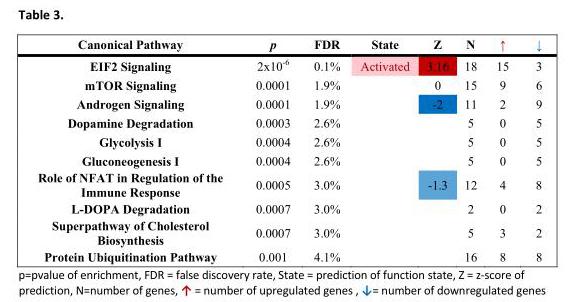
<table><thead><tr><td>Canonical Pathway</td><td>p</td><td>FDR</td><td>State</td><td>Z</td><td>N</td><td>↑</td><td>↓</td></tr></thead><tbody><tr><td>EIF2 Signaling</td><td>2x10-6</td><td>0.1%</td><td>Activated</td><td>3.16</td><td>18</td><td>15</td><td>3</td></tr><tr><td>mTOR Signaling</td><td>0.0001</td><td>1.9%</td><td></td><td>0</td><td>15</td><td>9</td><td>6</td></tr><tr><td>Androgen Signaling</td><td>0.0001</td><td>1.9%</td><td></td><td>-2</td><td>11</td><td>2</td><td>9</td></tr><tr><td>Dopamine Degradation</td><td>0.0003</td><td>2.6%</td><td></td><td></td><td>5</td><td>0</td><td>5</td></tr><tr><td>Glycolysis I</td><td>0.0004</td><td>2.6%</td><td></td><td></td><td>5</td><td>0</td><td>5</td></tr><tr><td>Gluconeogenesis I</td><td>0.0004</td><td>2.6%</td><td></td><td></td><td>5</td><td>0</td><td>5</td></tr><tr><td>Role of NFAT in Regulation of the Immune Response</td><td>0.0005</td><td>3.0%</td><td></td><td>-1.3</td><td>12</td><td>4</td><td>8</td></tr><tr><td>L-DOPA Degradation</td><td>0.0007</td><td>3.0%</td><td></td><td></td><td>2</td><td>0</td><td>2</td></tr><tr><td>Superpathway of Cholesterol Biosynthesis</td><td>0.0007</td><td>3.0%</td><td></td><td></td><td>5</td><td>3</td><td>2</td></tr><tr><td>Protein Ubiquitination Pathway</td><td>0.001</td><td>4.1%</td><td></td><td></td><td>16</td><td>8</td><td>8</td></tr></tbody></table>